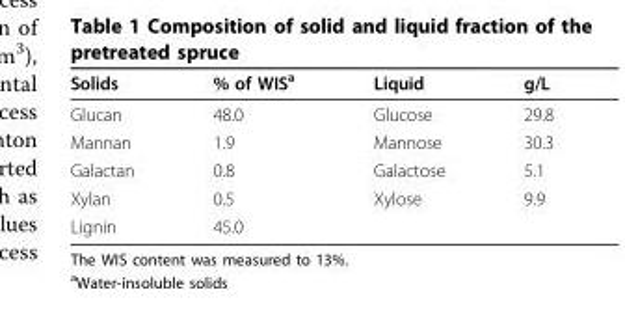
<table><thead><tr><td>Solids</td><td>% of WIS<sup>a</sup></td><td>Liquid</td><td>g/L</td></tr></thead><tbody><tr><td>Glucan</td><td>48.0</td><td>Glucose</td><td>29.8</td></tr><tr><td>Mannan</td><td>1.9</td><td>Mannose</td><td>30.3</td></tr><tr><td>Galactan</td><td>0.8</td><td>Galactose</td><td>5.1</td></tr><tr><td>Xylan</td><td>0.5</td><td>Xylose</td><td>9.9</td></tr><tr><td>Lignin</td><td>45.0</td><td></td><td></td></tr></tbody></table>